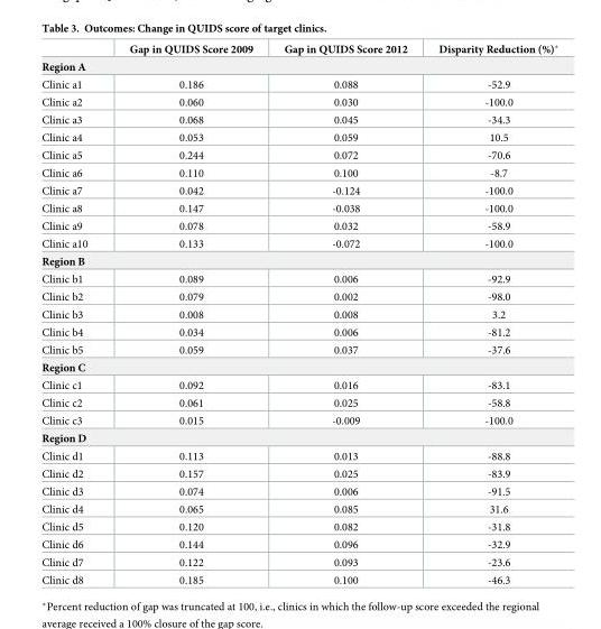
<table><thead><tr><td></td><td>Gap in QUIDS Score 2009</td><td>Gap in QUIDS Score 2012</td><td>Disparity Reduction (%)*</td></tr></thead><tbody><tr><td colspan="4">Region A</td></tr><tr><td>Clinic a1</td><td>0.186</td><td>0.088</td><td>-52.9</td></tr><tr><td>Clinic a2</td><td>0.060</td><td>0.030</td><td>-100.0</td></tr><tr><td>Clinic a3</td><td>0.068</td><td>0.045</td><td>-34.3</td></tr><tr><td>Clinic a4</td><td>0.053</td><td>0.059</td><td>10.5</td></tr><tr><td>Clinic a5</td><td>0.244</td><td>0.072</td><td>-70.6</td></tr><tr><td>Clinic a6</td><td>0.110</td><td>0.100</td><td>-8.7</td></tr><tr><td>Clinic a7</td><td>0.042</td><td>-0.124</td><td>-100.0</td></tr><tr><td>Clinic a8</td><td>0.147</td><td>-0.038</td><td>-100.0</td></tr><tr><td>Clinic a9</td><td>0.078</td><td>0.032</td><td>-58.9</td></tr><tr><td>Clinic a10</td><td>0.133</td><td>-0.072</td><td>-100.0</td></tr><tr><td colspan="4">Region B</td></tr><tr><td>Clinic b1</td><td>0.089</td><td>0.006</td><td>-92.9</td></tr><tr><td>Clinic b2</td><td>0.079</td><td>0.002</td><td>-98.0</td></tr><tr><td>Clinic b3</td><td>0.008</td><td>0.008</td><td>3.2</td></tr><tr><td>Clinic b4</td><td>0.034</td><td>0.006</td><td>-81.2</td></tr><tr><td>Clinic b5</td><td>0.059</td><td>0.037</td><td>-37.6</td></tr><tr><td colspan="4">Region C</td></tr><tr><td>Clinic c1</td><td>0.092</td><td>0.016</td><td>-83.1</td></tr><tr><td>Clinic c2</td><td>0.061</td><td>0.025</td><td>-58.8</td></tr><tr><td>Clinic c3</td><td>0.015</td><td>-0.009</td><td>-100.0</td></tr><tr><td colspan="4">Region D</td></tr><tr><td>Clinic d1</td><td>0.113</td><td>0.013</td><td>-88.8</td></tr><tr><td>Clinic d2</td><td>0.157</td><td>0.025</td><td>-83.9</td></tr><tr><td>Clinic d3</td><td>0.074</td><td>0.006</td><td>-91.5</td></tr><tr><td>Clinic d4</td><td>0.065</td><td>0.085</td><td>31.6</td></tr><tr><td>Clinic d5</td><td>0.120</td><td>0.082</td><td>-31.8</td></tr><tr><td>Clinic d6</td><td>0.144</td><td>0.096</td><td>-32.9</td></tr><tr><td>Clinic d7</td><td>0.122</td><td>0.093</td><td>-23.6</td></tr><tr><td>Clinic d8</td><td>0.185</td><td>0.100</td><td>-46.3</td></tr></tbody></table>